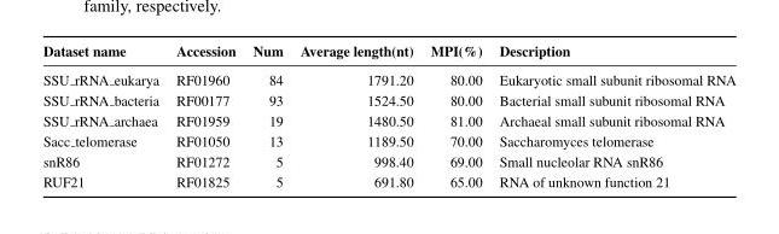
<table><thead><tr><td>Dataset name</td><td>Accession</td><td>Num</td><td>Average length(nt)</td><td>MPI(%)</td><td>Description</td></tr></thead><tbody><tr><td>SSU rRNA eukarya</td><td>RF01960</td><td>84</td><td>1791.20</td><td>80.00</td><td>Eukaryotic small subunit ribosomal RNA</td></tr><tr><td>SSU rRNA bacteria</td><td>RF00177</td><td>93</td><td>1524.50</td><td>80.00</td><td>Bacterial small subunit ribosomal RNA</td></tr><tr><td>SSU rRNA archaea</td><td>RF01959</td><td>19</td><td>1480.50</td><td>81.00</td><td>Archaeal small subunit ribosomal RNA</td></tr><tr><td>Sacc telomerase</td><td>RF01050</td><td>13</td><td>1189.50</td><td>70.00</td><td>Saccharomyces telomerase</td></tr><tr><td>snR86</td><td>RF01272</td><td>5</td><td>998.40</td><td>69.00</td><td>Small nucleolar RNA snR86</td></tr><tr><td>RUF21</td><td>RF01825</td><td>5</td><td>691.80</td><td>65.00</td><td>RNA of unknown function 21</td></tr></tbody></table>